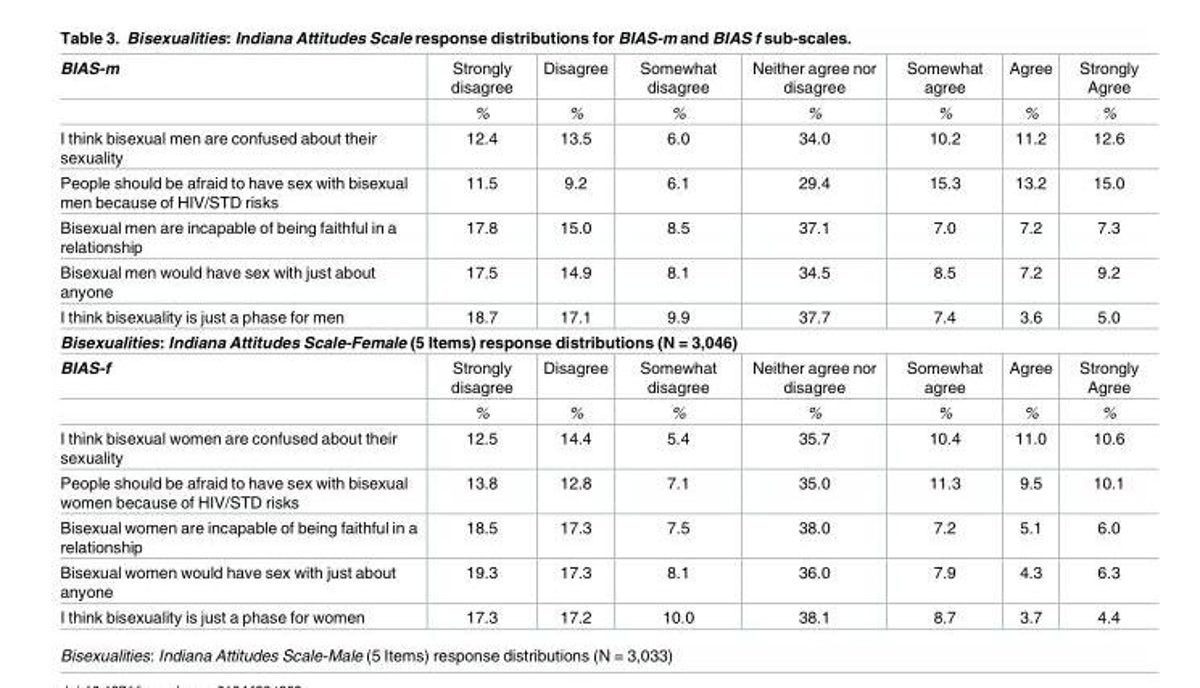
<table><tbody><tr><td rowspan="2">BIAS-m</td><td>Strongly disagree</td><td>Disagree</td><td>Somewhat disagree</td><td>Neither agree nor disagree</td><td>Somewhat agree</td><td>Agree</td><td>Strongly Agree</td></tr><tr><td>%</td><td>%</td><td>%</td><td>%</td><td>%</td><td>%</td><td>%</td></tr><tr><td>I think bisexual men are confused about their sexuality</td><td>12.4</td><td>13.5</td><td>6.0</td><td>34.0</td><td>10.2</td><td>11.2</td><td>12.6</td></tr><tr><td>People should be afraid to have sex with bisexual men because of HIV/STD risks</td><td>11.5</td><td>9.2</td><td>6.1</td><td>29.4</td><td>15.3</td><td>13.2</td><td>15.0</td></tr><tr><td>Bisexual men are incapable of being faithful in a relationship</td><td>17.8</td><td>15.0</td><td>8.5</td><td>37.1</td><td>7.0</td><td>7.2</td><td>7.3</td></tr><tr><td>Bisexual men would have sex with just about anyone</td><td>17.5</td><td>14.9</td><td>8.1</td><td>34.5</td><td>8.5</td><td>7.2</td><td>9.2</td></tr><tr><td>I think bisexuality is just a phase for men</td><td>18.7</td><td>17.1</td><td>9.9</td><td>37.7</td><td>7.4</td><td>3.6</td><td>5.0</td></tr><tr><td colspan="8">Bisexualities: Indiana Attitudes Scale-Female (5 Items) response distributions (N = 3,046)</td></tr><tr><td rowspan="2">BIAS-f</td><td>Strongly disagree</td><td>Disagree</td><td>Somewhat disagree</td><td>Neither agree nor disagree</td><td>Somewhat agree</td><td>Agree</td><td>Strongly Agree</td></tr><tr><td>%</td><td>%</td><td>%</td><td>%</td><td>%</td><td>%</td><td>%</td></tr><tr><td>I think bisexual women are confused about their sexuality</td><td>12.5</td><td>14.4</td><td>5.4</td><td>35.7</td><td>10.4</td><td>11.0</td><td>10.6</td></tr><tr><td>People should be afraid to have sex with bisexual women because of HIV/STD risks</td><td>13.8</td><td>12.8</td><td>7.1</td><td>35.0</td><td>11.3</td><td>9.5</td><td>10.1</td></tr><tr><td>Bisexual women are incapable of being faithful in a relationship</td><td>18.5</td><td>17.3</td><td>7.5</td><td>38.0</td><td>7.2</td><td>5.1</td><td>6.0</td></tr><tr><td>Bisexual women would have sex with just about anyone</td><td>19.3</td><td>17.3</td><td>8.1</td><td>36.0</td><td>7.9</td><td>4.3</td><td>6.3</td></tr><tr><td>I think bisexuality is just a phase for women</td><td>17.3</td><td>17.2</td><td>10.0</td><td>38.1</td><td>8.7</td><td>3.7</td><td>4.4</td></tr></tbody></table>